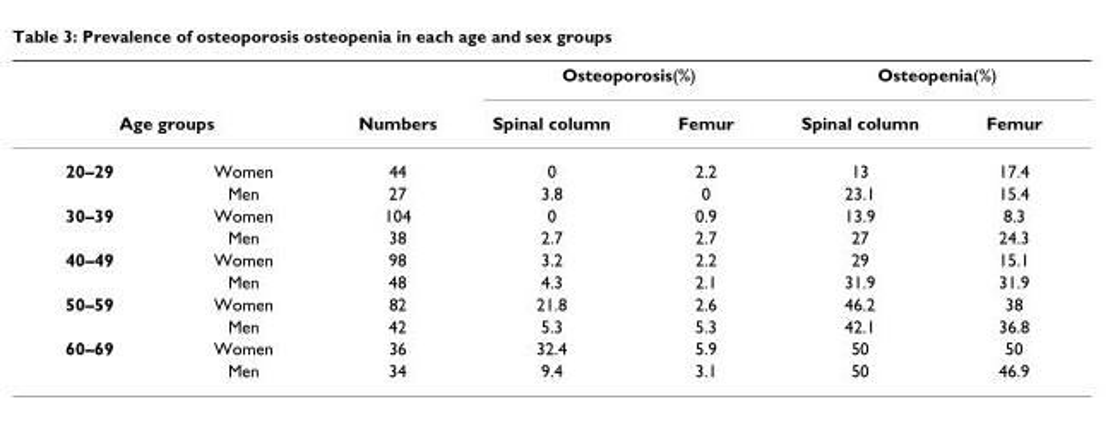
<table><thead><tr><td></td><td></td><td rowspan="2">Numbers</td><td colspan="2">Osteoporosis(%)</td><td colspan="2">Osteopenia(%)</td></tr><tr><td colspan="2">Age groups</td><td>Spinal column</td><td>Femur</td><td>Spinal column</td><td>Femur</td></tr></thead><tbody><tr><td rowspan="2">20–29</td><td>Women</td><td>44</td><td>0</td><td>2.2</td><td>13</td><td>17.4</td></tr><tr><td>Men</td><td>27</td><td>3.8</td><td>0</td><td>23.1</td><td>15.4</td></tr><tr><td rowspan="2">30–39</td><td>Women</td><td>104</td><td>0</td><td>0.9</td><td>13.9</td><td>8.3</td></tr><tr><td>Men</td><td>38</td><td>2.7</td><td>2.7</td><td>27</td><td>24.3</td></tr><tr><td rowspan="2">40–49</td><td>Women</td><td>98</td><td>3.2</td><td>2.2</td><td>29</td><td>15.1</td></tr><tr><td>Men</td><td>48</td><td>4.3</td><td>2.1</td><td>31.9</td><td>31.9</td></tr><tr><td rowspan="2">50–59</td><td>Women</td><td>82</td><td>21.8</td><td>2.6</td><td>46.2</td><td>38</td></tr><tr><td>Men</td><td>42</td><td>5.3</td><td>5.3</td><td>42.1</td><td>36.8</td></tr><tr><td rowspan="2">60–69</td><td>Women</td><td>36</td><td>32.4</td><td>5.9</td><td>50</td><td>50</td></tr><tr><td>Men</td><td>34</td><td>9.4</td><td>3.1</td><td>50</td><td>46.9</td></tr></tbody></table>